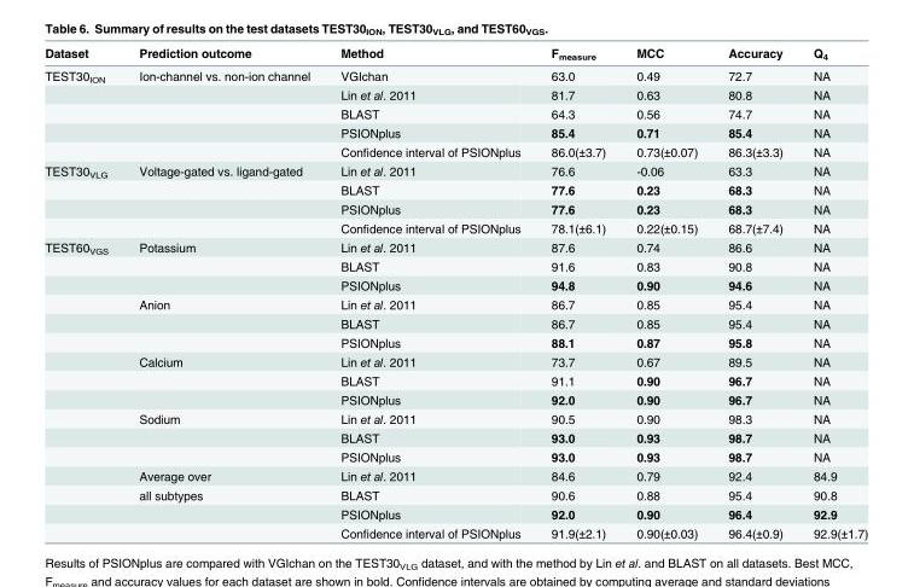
<table><thead><tr><td>Dataset</td><td>Prediction outcome</td><td>Method</td><td>F<sub>measure</sub></td><td>MCC</td><td>Accuracy</td><td>Q<sub>4</sub></td></tr></thead><tbody><tr><td rowspan="5">TEST30<sub>ION</sub></td><td>Ion-channel vs. non-ion channel</td><td>VGIchan</td><td>63.0</td><td>0.49</td><td>72.7</td><td>NA</td></tr><tr><td></td><td>Lin et al. 2011</td><td>81.7</td><td>0.63</td><td>80.8</td><td>NA</td></tr><tr><td></td><td>BLAST</td><td>64.3</td><td>0.56</td><td>74.7</td><td>NA</td></tr><tr><td></td><td>PSIONplus</td><td>85.4</td><td>0.71</td><td>85.4</td><td>NA</td></tr><tr><td></td><td>Confidence interval of PSIONplus</td><td>86.0(±3.7)</td><td>0.73(±0.07)</td><td>86.3(±3.3)</td><td>NA</td></tr><tr><td rowspan="4">TEST30<sub>VLG</sub></td><td>Voltage-gated vs. ligand-gated</td><td>Lin et al. 2011</td><td>76.6</td><td>-0.06</td><td>63.3</td><td>NA</td></tr><tr><td></td><td>BLAST</td><td>77.6</td><td>0.23</td><td>68.3</td><td>NA</td></tr><tr><td></td><td>PSIONplus</td><td>77.6</td><td>0.23</td><td>68.3</td><td>NA</td></tr><tr><td></td><td>Confidence interval of PSIONplus</td><td>78.1(±6.1)</td><td>0.22(±0.15)</td><td>68.7(±7.4)</td><td>NA</td></tr><tr><td rowspan="16">TEST60<sub>VGS</sub></td><td>Potassium</td><td>Lin et al. 2011</td><td>87.6</td><td>0.74</td><td>86.6</td><td>NA</td></tr><tr><td></td><td>BLAST</td><td>91.6</td><td>0.83</td><td>90.8</td><td>NA</td></tr><tr><td></td><td>PSIONplus</td><td>94.8</td><td>0.90</td><td>94.6</td><td>NA</td></tr><tr><td>Anion</td><td>Lin et al. 2011</td><td>86.7</td><td>0.85</td><td>95.4</td><td>NA</td></tr><tr><td></td><td>BLAST</td><td>86.7</td><td>0.85</td><td>95.4</td><td>NA</td></tr><tr><td></td><td>PSIONplus</td><td>88.1</td><td>0.87</td><td>95.8</td><td>NA</td></tr><tr><td>Calcium</td><td>Lin et al. 2011</td><td>73.7</td><td>0.67</td><td>89.5</td><td>NA</td></tr><tr><td></td><td>BLAST</td><td>91.1</td><td>0.90</td><td>96.7</td><td>NA</td></tr><tr><td></td><td>PSIONplus</td><td>92.0</td><td>0.90</td><td>96.7</td><td>NA</td></tr><tr><td>Sodium</td><td>Lin et al. 2011</td><td>90.5</td><td>0.90</td><td>98.3</td><td>NA</td></tr><tr><td></td><td>BLAST</td><td>93.0</td><td>0.93</td><td>98.7</td><td>NA</td></tr><tr><td></td><td>PSIONplus</td><td>93.0</td><td>0.93</td><td>98.7</td><td>NA</td></tr><tr><td>Average over</td><td>Lin et al. 2011</td><td>84.6</td><td>0.79</td><td>92.4</td><td>84.9</td></tr><tr><td>all subtypes</td><td>BLAST</td><td>90.6</td><td>0.88</td><td>95.4</td><td>90.8</td></tr><tr><td></td><td>PSIONplus</td><td>92.0</td><td>0.90</td><td>96.4</td><td>92.9</td></tr><tr><td></td><td>Confidence interval of PSIONplus</td><td>91.9(±2.1)</td><td>0.90(±0.03)</td><td>96.4(±0.9)</td><td>92.9(±1.7)</td></tr></tbody></table>